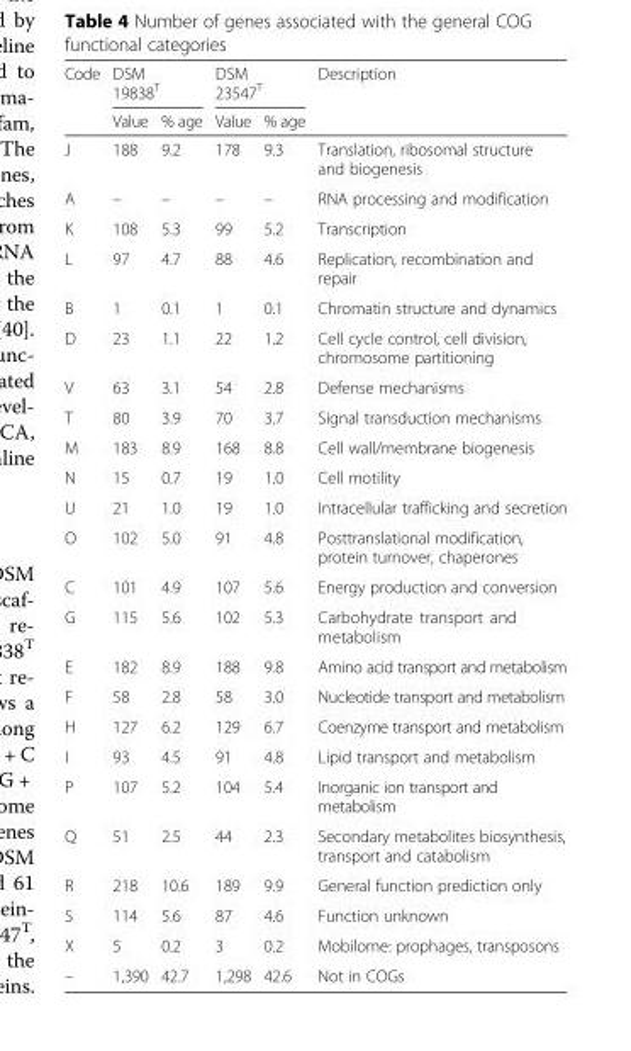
<table><thead><tr><td rowspan="2">Code</td><td colspan="2">DSM 19838<sup>T</sup></td><td colspan="2">DSM 23547<sup>T</sup></td><td rowspan="2">Description</td></tr><tr><td>Value</td><td>% age</td><td>Value</td><td>% age</td></tr></thead><tbody><tr><td>J</td><td>188</td><td>9.2</td><td>178</td><td>9.3</td><td>Translation, ribosomal structure and biogenesis</td></tr><tr><td>A</td><td>–</td><td>–</td><td>–</td><td>–</td><td>RNA processing and modification</td></tr><tr><td>K</td><td>108</td><td>5.3</td><td>99</td><td>5.2</td><td>Transcription</td></tr><tr><td>L</td><td>97</td><td>4.7</td><td>88</td><td>4.6</td><td>Replication, recombination and repair</td></tr><tr><td>B</td><td>1</td><td>0.1</td><td>1</td><td>0.1</td><td>Chromatin structure and dynamics</td></tr><tr><td>D</td><td>23</td><td>1.1</td><td>22</td><td>1.2</td><td>Cell cycle control, cell division, chromosome partitioning</td></tr><tr><td>V</td><td>63</td><td>3.1</td><td>54</td><td>2.8</td><td>Defense mechanisms</td></tr><tr><td>T</td><td>80</td><td>3.9</td><td>70</td><td>3.7</td><td>Signal transduction mechanisms</td></tr><tr><td>M</td><td>183</td><td>8.9</td><td>168</td><td>8.8</td><td>Cell wall/membrane biogenesis</td></tr><tr><td>N</td><td>15</td><td>0.7</td><td>19</td><td>1.0</td><td>Cell motility</td></tr><tr><td>U</td><td>21</td><td>1.0</td><td>19</td><td>1.0</td><td>Intracellular trafficking and secretion</td></tr><tr><td>O</td><td>102</td><td>5.0</td><td>91</td><td>4.8</td><td>Posttranslational modification, protein turnover, chaperones</td></tr><tr><td>C</td><td>101</td><td>4.9</td><td>107</td><td>5.6</td><td>Energy production and conversion</td></tr><tr><td>G</td><td>115</td><td>5.6</td><td>102</td><td>5.3</td><td>Carbohydrate transport and metabolism</td></tr><tr><td>E</td><td>182</td><td>8.9</td><td>188</td><td>9.8</td><td>Amino acid transport and metabolism</td></tr><tr><td>F</td><td>58</td><td>2.8</td><td>58</td><td>3.0</td><td>Nucleotide transport and metabolism</td></tr><tr><td>H</td><td>127</td><td>6.2</td><td>129</td><td>6.7</td><td>Coenzyme transport and metabolism</td></tr><tr><td>I</td><td>93</td><td>4.5</td><td>91</td><td>4.8</td><td>Lipid transport and metabolism</td></tr><tr><td>P</td><td>107</td><td>5.2</td><td>104</td><td>5.4</td><td>Inorganic ion transport and metabolism</td></tr><tr><td>Q</td><td>51</td><td>2.5</td><td>44</td><td>2.3</td><td>Secondary metabolites biosynthesis, transport and catabolism</td></tr><tr><td>R</td><td>218</td><td>10.6</td><td>189</td><td>9.9</td><td>General function prediction only</td></tr><tr><td>S</td><td>114</td><td>5.6</td><td>87</td><td>4.6</td><td>Function unknown</td></tr><tr><td>X</td><td>5</td><td>0.2</td><td>3</td><td>0.2</td><td>Mobilome: prophages, transposons</td></tr><tr><td>–</td><td>1,390</td><td>42.7</td><td>1,298</td><td>42.6</td><td>Not in COGs</td></tr></tbody></table>